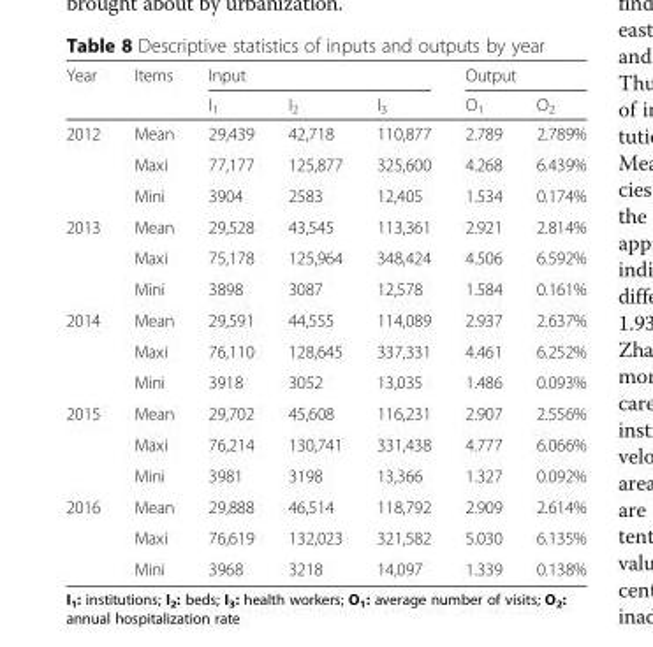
<table><thead><tr><td rowspan="2">Year</td><td rowspan="2">Items</td><td colspan="3">Input</td><td colspan="2">Output</td></tr><tr><td>I<sub>1</sub></td><td>I<sub>2</sub></td><td>I<sub>3</sub></td><td>O<sub>1</sub></td><td>O<sub>2</sub></td></tr></thead><tbody><tr><td rowspan="3">2012</td><td>Mean</td><td>29,439</td><td>42,718</td><td>110,877</td><td>2.789</td><td>2.789%</td></tr><tr><td>Maxi</td><td>77,177</td><td>125,877</td><td>325,600</td><td>4.268</td><td>6.439%</td></tr><tr><td>Mini</td><td>3904</td><td>2583</td><td>12,405</td><td>1.534</td><td>0.174%</td></tr><tr><td rowspan="3">2013</td><td>Mean</td><td>29,528</td><td>43,545</td><td>113,361</td><td>2.921</td><td>2.814%</td></tr><tr><td>Maxi</td><td>75,178</td><td>125,964</td><td>348,424</td><td>4.506</td><td>6.592%</td></tr><tr><td>Mini</td><td>3898</td><td>3087</td><td>12,578</td><td>1.584</td><td>0.161%</td></tr><tr><td rowspan="3">2014</td><td>Mean</td><td>29,591</td><td>44,555</td><td>114,089</td><td>2.937</td><td>2.637%</td></tr><tr><td>Maxi</td><td>76,110</td><td>128,645</td><td>337,331</td><td>4.461</td><td>6.252%</td></tr><tr><td>Mini</td><td>3918</td><td>3052</td><td>13,035</td><td>1.486</td><td>0.093%</td></tr><tr><td rowspan="3">2015</td><td>Mean</td><td>29,702</td><td>45,608</td><td>116,231</td><td>2.907</td><td>2.556%</td></tr><tr><td>Maxi</td><td>76,214</td><td>130,741</td><td>331,438</td><td>4.777</td><td>6.066%</td></tr><tr><td>Mini</td><td>3981</td><td>3198</td><td>13,366</td><td>1.327</td><td>0.092%</td></tr><tr><td rowspan="3">2016</td><td>Mean</td><td>29,888</td><td>46,514</td><td>118,792</td><td>2.909</td><td>2.614%</td></tr><tr><td>Maxi</td><td>76,619</td><td>132,023</td><td>321,582</td><td>5.030</td><td>6.135%</td></tr><tr><td>Mini</td><td>3968</td><td>3218</td><td>14,097</td><td>1.339</td><td>0.138%</td></tr></tbody></table>